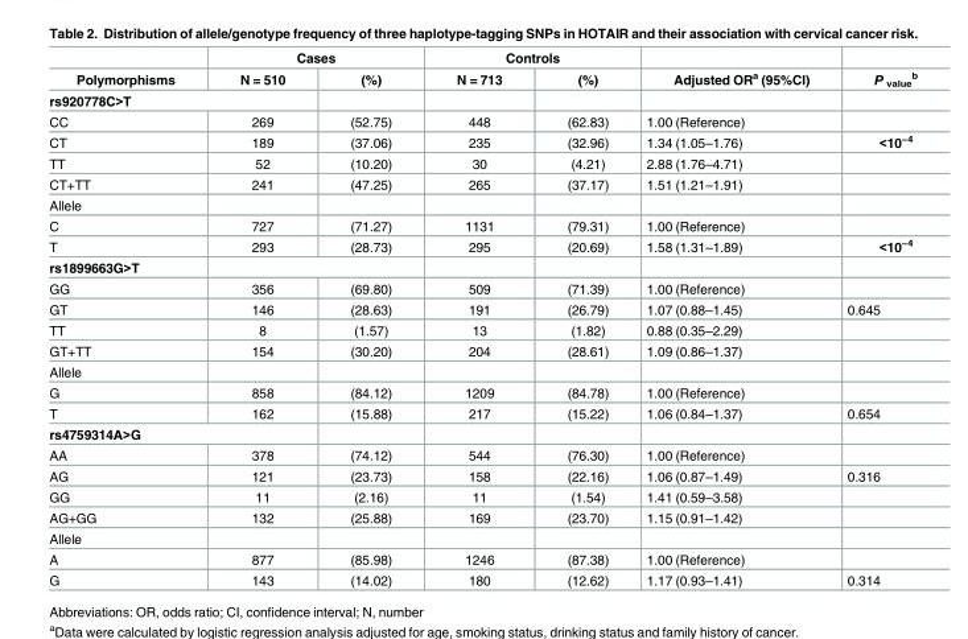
<table><thead><tr><td rowspan="2">Polymorphisms</td><td colspan="2">Cases</td><td colspan="2">Controls</td><td rowspan="2">Adjusted OR<sup>a</sup> (95%CI)</td><td rowspan="2">P <sub>value</sub> <sup>b</sup></td></tr><tr><td>N = 510</td><td>(%)</td><td>N = 713</td><td>(%)</td></tr></thead><tbody><tr><td colspan="7">rs920778C&gt;T</td></tr><tr><td>CC</td><td>269</td><td>(52.75)</td><td>448</td><td>(62.83)</td><td>1.00 (Reference)</td><td></td></tr><tr><td>CT</td><td>189</td><td>(37.06)</td><td>235</td><td>(32.96)</td><td>1.34 (1.05–1.76)</td><td>&lt;10<sup>−4</sup></td></tr><tr><td>TT</td><td>52</td><td>(10.20)</td><td>30</td><td>(4.21)</td><td>2.88 (1.76–4.71)</td><td></td></tr><tr><td>CT+TT</td><td>241</td><td>(47.25)</td><td>265</td><td>(37.17)</td><td>1.51 (1.21–1.91)</td><td></td></tr><tr><td colspan="7">Allele</td></tr><tr><td>C</td><td>727</td><td>(71.27)</td><td>1131</td><td>(79.31)</td><td>1.00 (Reference)</td><td></td></tr><tr><td>T</td><td>293</td><td>(28.73)</td><td>295</td><td>(20.69)</td><td>1.58 (1.31–1.89)</td><td>&lt;10<sup>−4</sup></td></tr><tr><td colspan="7">rs1899663G&gt;T</td></tr><tr><td>GG</td><td>356</td><td>(69.80)</td><td>509</td><td>(71.39)</td><td>1.00 (Reference)</td><td></td></tr><tr><td>GT</td><td>146</td><td>(28.63)</td><td>191</td><td>(26.79)</td><td>1.07 (0.88–1.45)</td><td>0.645</td></tr><tr><td>TT</td><td>8</td><td>(1.57)</td><td>13</td><td>(1.82)</td><td>0.88 (0.35–2.29)</td><td></td></tr><tr><td>GT+TT</td><td>154</td><td>(30.20)</td><td>204</td><td>(28.61)</td><td>1.09 (0.86–1.37)</td><td></td></tr><tr><td colspan="7">Allele</td></tr><tr><td>G</td><td>858</td><td>(84.12)</td><td>1209</td><td>(84.78)</td><td>1.00 (Reference)</td><td></td></tr><tr><td>T</td><td>162</td><td>(15.88)</td><td>217</td><td>(15.22)</td><td>1.06 (0.84–1.37)</td><td>0.654</td></tr><tr><td colspan="7">rs4759314A&gt;G</td></tr><tr><td>AA</td><td>378</td><td>(74.12)</td><td>544</td><td>(76.30)</td><td>1.00 (Reference)</td><td></td></tr><tr><td>AG</td><td>121</td><td>(23.73)</td><td>158</td><td>(22.16)</td><td>1.06 (0.87–1.49)</td><td>0.316</td></tr><tr><td>GG</td><td>11</td><td>(2.16)</td><td>11</td><td>(1.54)</td><td>1.41 (0.59–3.58)</td><td></td></tr><tr><td>AG+GG</td><td>132</td><td>(25.88)</td><td>169</td><td>(23.70)</td><td>1.15 (0.91–1.42)</td><td></td></tr><tr><td colspan="7">Allele</td></tr><tr><td>A</td><td>877</td><td>(85.98)</td><td>1246</td><td>(87.38)</td><td>1.00 (Reference)</td><td></td></tr><tr><td>G</td><td>143</td><td>(14.02)</td><td>180</td><td>(12.62)</td><td>1.17 (0.93–1.41)</td><td>0.314</td></tr></tbody></table>